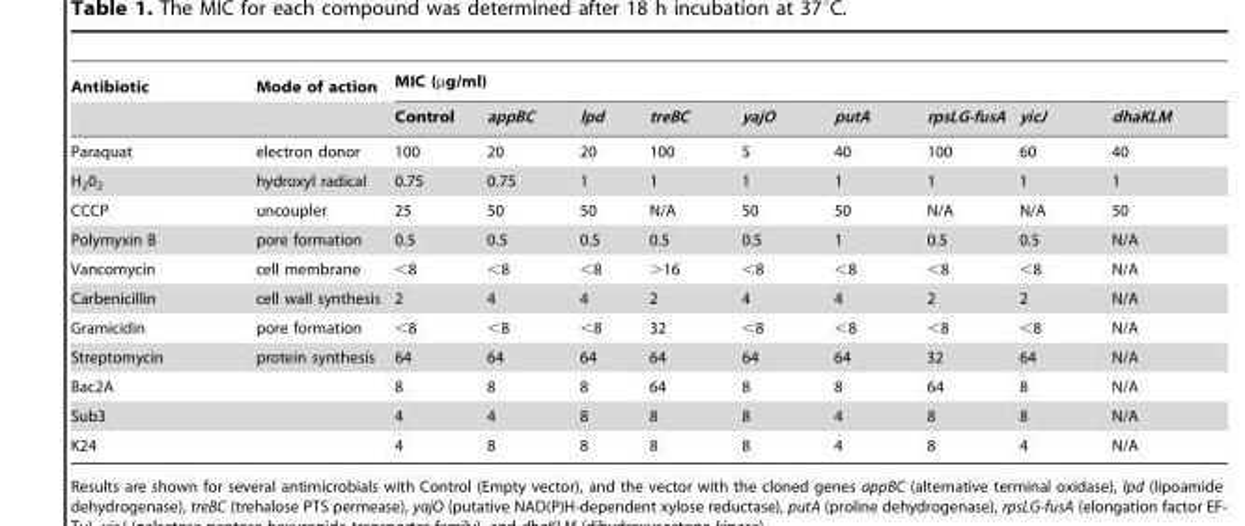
<table><thead><tr><td rowspan="2">Antibiotic</td><td rowspan="2">Mode of action</td><td colspan="9">MIC (µg/ml)</td></tr><tr><td>Control</td><td>appBC</td><td>lpd</td><td>treBC</td><td>yajO</td><td>putA</td><td>rpsLG-fusA</td><td>yicJ</td><td>dhaKLM</td></tr></thead><tbody><tr><td>Paraquat</td><td>electron donor</td><td>100</td><td>20</td><td>20</td><td>100</td><td>5</td><td>40</td><td>100</td><td>60</td><td>40</td></tr><tr><td>H<sub>2</sub>0<sub>2</sub></td><td>hydroxyl radical</td><td>0.75</td><td>0.75</td><td>1</td><td>1</td><td>1</td><td>1</td><td>1</td><td>1</td><td>1</td></tr><tr><td>CCCP</td><td>uncoupler</td><td>25</td><td>50</td><td>50</td><td>N/A</td><td>50</td><td>50</td><td>N/A</td><td>N/A</td><td>50</td></tr><tr><td>Polymyxin B</td><td>pore formation</td><td>0.5</td><td>0.5</td><td>0.5</td><td>0.5</td><td>0.5</td><td>1</td><td>0.5</td><td>0.5</td><td>N/A</td></tr><tr><td>Vancomycin</td><td>cell membrane</td><td>&lt;8</td><td>&lt;8</td><td>&lt;8</td><td>&gt;16</td><td>&lt;8</td><td>&lt;8</td><td>&lt;8</td><td>&lt;8</td><td>N/A</td></tr><tr><td>Carbenicillin</td><td>cell wall synthesis</td><td>2</td><td>4</td><td>4</td><td>2</td><td>4</td><td>4</td><td>2</td><td>2</td><td>N/A</td></tr><tr><td>Gramicidin</td><td>pore formation</td><td>&lt;8</td><td>&lt;8</td><td>&lt;8</td><td>32</td><td>&lt;8</td><td>&lt;8</td><td>&lt;8</td><td>&lt;8</td><td>N/A</td></tr><tr><td>Streptomycin</td><td>protein synthesis</td><td>64</td><td>64</td><td>64</td><td>64</td><td>64</td><td>64</td><td>32</td><td>64</td><td>N/A</td></tr><tr><td>Bac2A</td><td></td><td>8</td><td>8</td><td>8</td><td>64</td><td>8</td><td>8</td><td>64</td><td>8</td><td>N/A</td></tr><tr><td>Sub3</td><td></td><td>4</td><td>4</td><td>8</td><td>8</td><td>8</td><td>4</td><td>8</td><td>8</td><td>N/A</td></tr><tr><td>K24</td><td></td><td>4</td><td>8</td><td>8</td><td>8</td><td>8</td><td>4</td><td>8</td><td>4</td><td>N/A</td></tr></tbody></table>